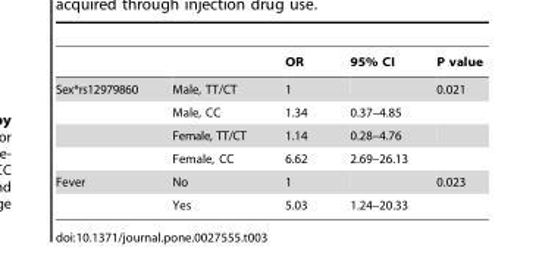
<table><thead><tr><td></td><td></td><td>OR</td><td>95% CI</td><td>P value</td></tr></thead><tbody><tr><td rowspan="4">Sex*rs12979860</td><td>Male, TT/CT</td><td>1</td><td></td><td>0.021</td></tr><tr><td>Male, CC</td><td>1.34</td><td>0.37–4.85</td><td></td></tr><tr><td>Female, TT/CT</td><td>1.14</td><td>0.28–4.76</td><td></td></tr><tr><td>Female, CC</td><td>6.62</td><td>2.69–26.13</td><td></td></tr><tr><td rowspan="2">Fever</td><td>No</td><td>1</td><td></td><td>0.023</td></tr><tr><td>Yes</td><td>5.03</td><td>1.24–20.33</td><td></td></tr></tbody></table>